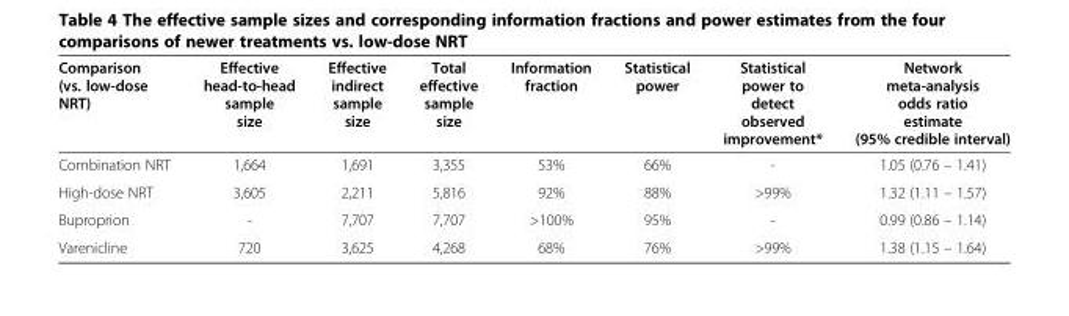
<table><thead><tr><td>Comparison (vs. low-dose NRT)</td><td>Effective head-to-head sample size</td><td>Effective indirect sample size</td><td>Total effective sample size</td><td>Information fraction</td><td>Statistical power</td><td>Statistical power to detect observed improvement*</td><td>Network meta-analysis odds ratio estimate (95% credible interval)</td></tr></thead><tbody><tr><td>Combination NRT</td><td>1,664</td><td>1,691</td><td>3,355</td><td>53%</td><td>66%</td><td>-</td><td>1.05 (0.76 – 1.41)</td></tr><tr><td>High-dose NRT</td><td>3,605</td><td>2,211</td><td>5,816</td><td>92%</td><td>88%</td><td>&gt;99%</td><td>1.32 (1.11 – 1.57)</td></tr><tr><td>Buproprion</td><td>-</td><td>7,707</td><td>7,707</td><td>&gt;100%</td><td>95%</td><td>-</td><td>0.99 (0.86 – 1.14)</td></tr><tr><td>Varenicline</td><td>720</td><td>3,625</td><td>4,268</td><td>68%</td><td>76%</td><td>&gt;99%</td><td>1.38 (1.15 – 1.64)</td></tr></tbody></table>